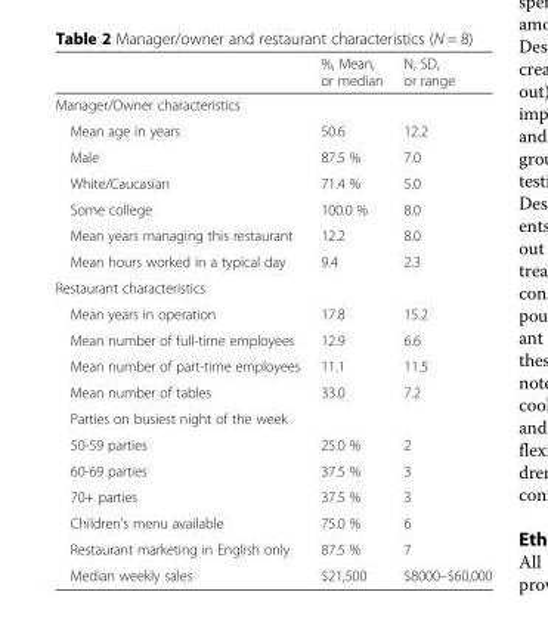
<table><thead><tr><td></td><td>%, Mean, or median</td><td>N, SD, or range</td></tr></thead><tbody><tr><td colspan="3">Manager/Owner characteristics</td></tr><tr><td>Mean age in years</td><td>50.6</td><td>12.2</td></tr><tr><td>Male</td><td>87.5 %</td><td>7.0</td></tr><tr><td>White/Caucasian</td><td>71.4 %</td><td>5.0</td></tr><tr><td>Some college</td><td>100.0 %</td><td>8.0</td></tr><tr><td>Mean years managing this restaurant</td><td>12.2</td><td>8.0</td></tr><tr><td>Mean hours worked in a typical day</td><td>9.4</td><td>2.3</td></tr><tr><td colspan="3">Restaurant characteristics</td></tr><tr><td>Mean years in operation</td><td>17.8</td><td>15.2</td></tr><tr><td>Mean number of full-time employees</td><td>12.9</td><td>6.6</td></tr><tr><td>Mean number of part-time employees</td><td>11.1</td><td>11.5</td></tr><tr><td>Mean number of tables</td><td>33.0</td><td>7.2</td></tr><tr><td colspan="3">Parties on busiest night of the week</td></tr><tr><td>50-59 parties</td><td>25.0 %</td><td>2</td></tr><tr><td>60-69 parties</td><td>37.5 %</td><td>3</td></tr><tr><td>70+ parties</td><td>37.5 %</td><td>3</td></tr><tr><td>Children’s menu available</td><td>75.0 %</td><td>6</td></tr><tr><td>Restaurant marketing in English only</td><td>87.5 %</td><td>7</td></tr><tr><td>Median weekly sales</td><td>$21,500</td><td>$8000–$60,000</td></tr></tbody></table>